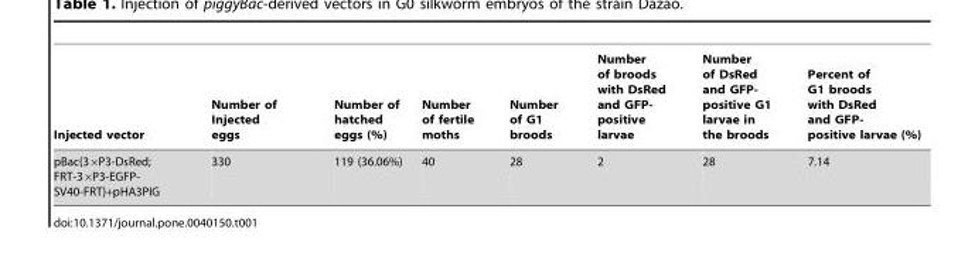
<table><thead><tr><td>Injected vector</td><td>Number of Injected eggs</td><td>Number of hatched eggs (%)</td><td>Number of fertile moths</td><td>Number of G1 broods</td><td>Number of broods with DsRed and GFP- positive larvae</td><td>Number of DsRed and GFP- positive G1 larvae in the broods</td><td>Percent of G1 broods with DsRed and GFP- positive larvae (%)</td></tr></thead><tbody><tr><td>pBac{3×P3-DsRed; FRT-3×P3-EGFP- SV40-FRT}+pHA3PIG</td><td>330</td><td>119 (36.06%)</td><td>40</td><td>28</td><td>2</td><td>28</td><td>7.14</td></tr></tbody></table>